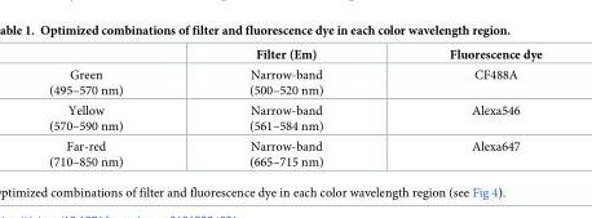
<table><thead><tr><td></td><td>Filter (Em)</td><td>Fluorescence dye</td></tr></thead><tbody><tr><td>Green (495–570 nm)</td><td>Narrow-band (500–520 nm)</td><td>CF488A</td></tr><tr><td>Yellow (570–590 nm)</td><td>Narrow-band (561–584 nm)</td><td>Alexa546</td></tr><tr><td>Far-red (710–850 nm)</td><td>Narrow-band (665–715 nm)</td><td>Alexa647</td></tr></tbody></table>